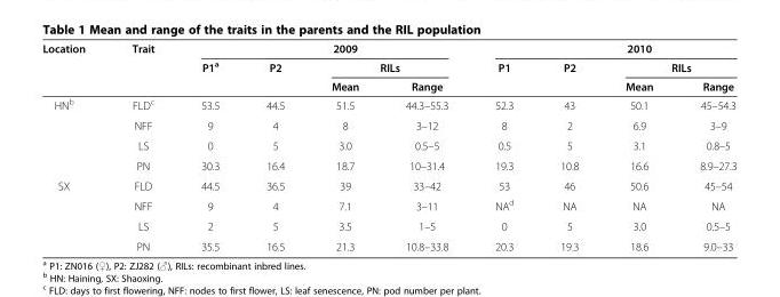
<table><thead><tr><td rowspan="3">Location</td><td rowspan="3">Trait</td><td rowspan="3">P1<sup>a</sup></td><td rowspan="3">P2</td><td>2009</td><td></td><td rowspan="3">P1</td><td rowspan="3">P2</td><td>2010</td><td></td></tr><tr><td colspan="2">RILs</td><td colspan="2">RILs</td></tr><tr><td>Mean</td><td>Range</td><td>Mean</td><td>Range</td></tr></thead><tbody><tr><td rowspan="4">HN<sup>b</sup></td><td>FLD<sup>c</sup></td><td>53.5</td><td>44.5</td><td>51.5</td><td>44.3–55.3</td><td>52.3</td><td>43</td><td>50.1</td><td>45–54.3</td></tr><tr><td>NFF</td><td>9</td><td>4</td><td>8</td><td>3–12</td><td>8</td><td>2</td><td>6.9</td><td>3–9</td></tr><tr><td>LS</td><td>0</td><td>5</td><td>3.0</td><td>0.5–5</td><td>0.5</td><td>5</td><td>3.1</td><td>0.8–5</td></tr><tr><td>PN</td><td>30.3</td><td>16.4</td><td>18.7</td><td>10–31.4</td><td>19.3</td><td>10.8</td><td>16.6</td><td>8.9–27.3</td></tr><tr><td rowspan="4">SX</td><td>FLD</td><td>44.5</td><td>36.5</td><td>39</td><td>33–42</td><td>53</td><td>46</td><td>50.6</td><td>45–54</td></tr><tr><td>NFF</td><td>9</td><td>4</td><td>7.1</td><td>3–11</td><td>NA<sup>d</sup></td><td>NA</td><td>NA</td><td>NA</td></tr><tr><td>LS</td><td>2</td><td>5</td><td>3.5</td><td>1–5</td><td>0</td><td>5</td><td>3.0</td><td>0.5–5</td></tr><tr><td>PN</td><td>35.5</td><td>16.5</td><td>21.3</td><td>10.8–33.8</td><td>20.3</td><td>19.3</td><td>18.6</td><td>9.0–33</td></tr></tbody></table>